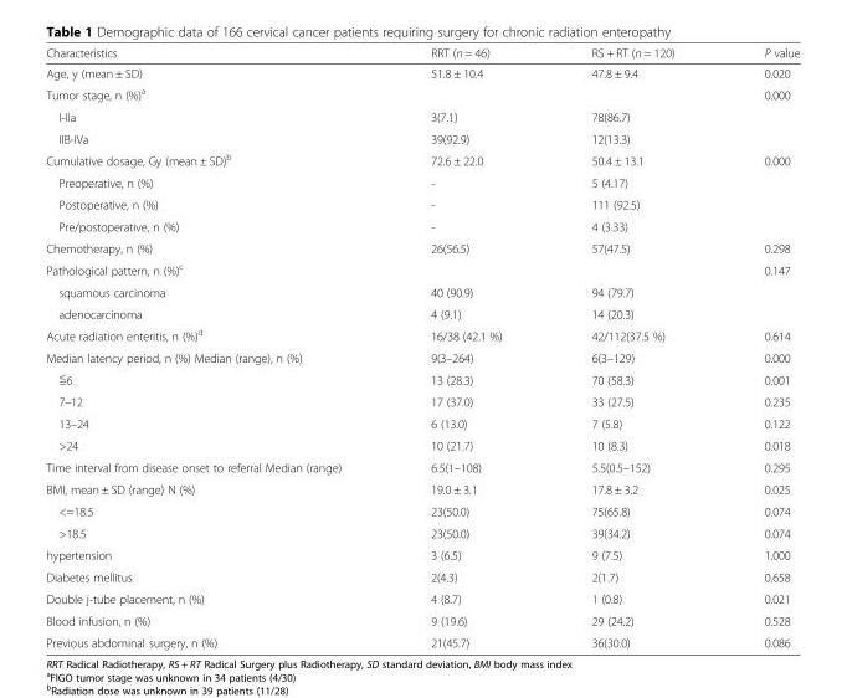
<table><thead><tr><td>Characteristics</td><td>RRT (n = 46)</td><td>RS + RT (n = 120)</td><td>P value</td></tr></thead><tbody><tr><td>Age, y (mean ± SD)</td><td>51.8 ± 10.4</td><td>47.8 ± 9.4</td><td>0.020</td></tr><tr><td>Tumor stage, n (%)<sup>a</sup></td><td></td><td></td><td>0.000</td></tr><tr><td>I-IIa</td><td>3(7.1)</td><td>78(86.7)</td><td></td></tr><tr><td>IIB-IVa</td><td>39(92.9)</td><td>12(13.3)</td><td></td></tr><tr><td>Cumulative dosage, Gy (mean ± SD)<sup>b</sup></td><td>72.6 ± 22.0</td><td>50.4 ± 13.1</td><td>0.000</td></tr><tr><td>Preoperative, n (%)</td><td>-</td><td>5 (4.17)</td><td></td></tr><tr><td>Postoperative, n (%)</td><td>-</td><td>111 (92.5)</td><td></td></tr><tr><td>Pre/postoperative, n (%)</td><td>-</td><td>4 (3.33)</td><td></td></tr><tr><td>Chemotherapy, n (%)</td><td>26(56.5)</td><td>57(47.5)</td><td>0.298</td></tr><tr><td>Pathological pattern, n (%)<sup>c</sup></td><td></td><td></td><td>0.147</td></tr><tr><td>squamous carcinoma</td><td>40 (90.9)</td><td>94 (79.7)</td><td></td></tr><tr><td>adenocarcinoma</td><td>4 (9.1)</td><td>14 (20.3)</td><td></td></tr><tr><td>Acute radiation enteritis, n (%)<sup>d</sup></td><td>16/38 (42.1 %)</td><td>42/112(37.5 %)</td><td>0.614</td></tr><tr><td>Median latency period, n (%) Median (range), n (%)</td><td>9(3–264)</td><td>6(3–129)</td><td>0.000</td></tr><tr><td>≦6</td><td>13 (28.3)</td><td>70 (58.3)</td><td>0.001</td></tr><tr><td>7–12</td><td>17 (37.0)</td><td>33 (27.5)</td><td>0.235</td></tr><tr><td>13–24</td><td>6 (13.0)</td><td>7 (5.8)</td><td>0.122</td></tr><tr><td>&gt;24</td><td>10 (21.7)</td><td>10 (8.3)</td><td>0.018</td></tr><tr><td>Time interval from disease onset to referral Median (range)</td><td>6.5(1–108)</td><td>5.5(0.5–152)</td><td>0.295</td></tr><tr><td>BMI, mean ± SD (range) N (%)</td><td>19.0 ± 3.1</td><td>17.8 ± 3.2</td><td>0.025</td></tr><tr><td>&lt;=18.5</td><td>23(50.0)</td><td>75(65.8)</td><td>0.074</td></tr><tr><td>&gt;18.5</td><td>23(50.0)</td><td>39(34.2)</td><td>0.074</td></tr><tr><td>hypertension</td><td>3 (6.5)</td><td>9 (7.5)</td><td>1.000</td></tr><tr><td>Diabetes mellitus</td><td>2(4.3)</td><td>2(1.7)</td><td>0.658</td></tr><tr><td>Double j-tube placement, n (%)</td><td>4 (8.7)</td><td>1 (0.8)</td><td>0.021</td></tr><tr><td>Blood infusion, n (%)</td><td>9 (19.6)</td><td>29 (24.2)</td><td>0.528</td></tr><tr><td>Previous abdominal surgery, n (%)</td><td>21(45.7)</td><td>36(30.0)</td><td>0.086</td></tr></tbody></table>